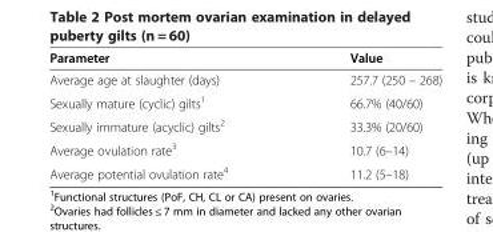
<table><thead><tr><td>Parameter</td><td>Value</td></tr></thead><tbody><tr><td>Average age at slaughter (days)</td><td>257.7 (250 – 268)</td></tr><tr><td>Sexually mature (cyclic) gilts<sup>1</sup></td><td>66.7% (40/60)</td></tr><tr><td>Sexually immature (acyclic) gilts<sup>2</sup></td><td>33.3% (20/60)</td></tr><tr><td>Average ovulation rate<sup>3</sup></td><td>10.7 (6–14)</td></tr><tr><td>Average potential ovulation rate<sup>4</sup></td><td>11.2 (5–18)</td></tr></tbody></table>